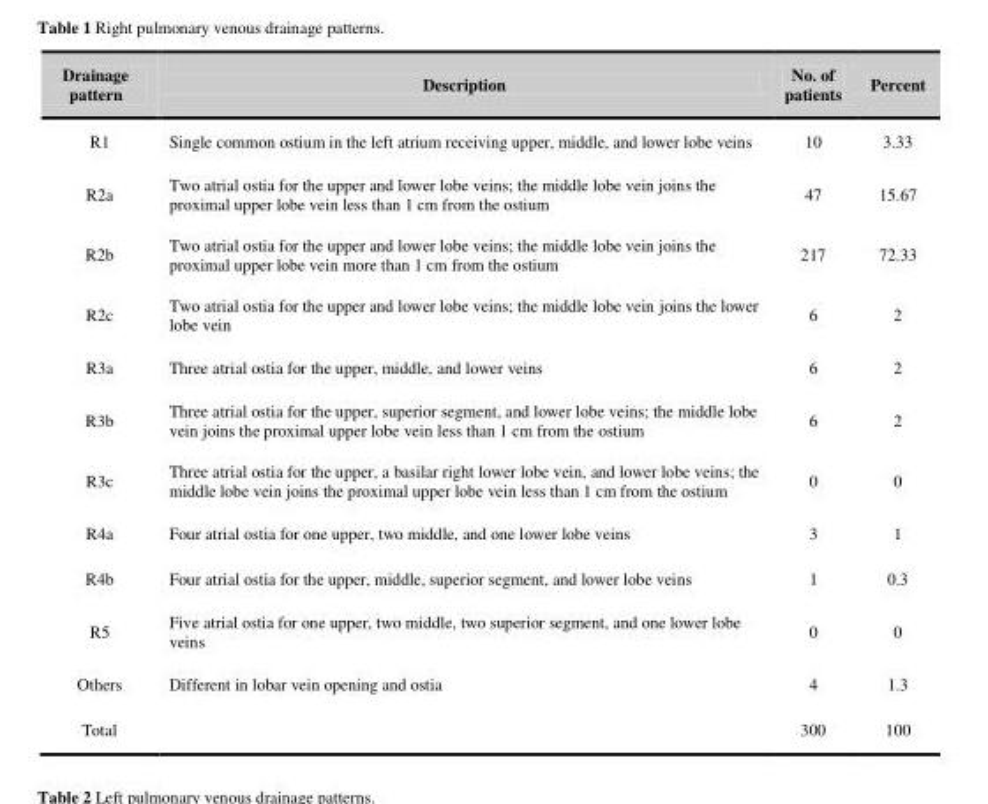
<table><thead><tr><td>Drainage pattern</td><td>Description</td><td>No. of patients</td><td>Percent</td></tr></thead><tbody><tr><td>R1</td><td>Single common ostium in the left atrium receiving upper, middle, and lower lobe veins</td><td>10</td><td>3.33</td></tr><tr><td>R2a</td><td>Two atrial ostia for the upper and lower lobe veins; the middle lobe vein joins the proximal upper lobe vein less than 1 cm from the ostium</td><td>47</td><td>15.67</td></tr><tr><td>R2b</td><td>Two atrial ostia for the upper and lower lobe veins; the middle lobe vein joins the proximal upper lobe vein more than 1 cm from the ostium</td><td>217</td><td>72.33</td></tr><tr><td>R2c</td><td>Two atrial ostia for the upper and lower lobe veins; the middle lobe vein joins the lower lobe vein</td><td>6</td><td>2</td></tr><tr><td>R3a</td><td>Three atrial ostia for the upper, middle, and lower veins</td><td>6</td><td>2</td></tr><tr><td>R3b</td><td>Three atrial ostia for the upper, superior segment, and lower lobe veins; the middle lobe vein joins the proximal upper lobe vein less than 1 cm from the ostium</td><td>6</td><td>2</td></tr><tr><td>R3c</td><td>Three atrial ostia for the upper, a basilar right lower lobe vein, and lower lobe veins; the middle lobe vein joins the proximal upper lobe vein less than 1 cm from the ostium</td><td>0</td><td>0</td></tr><tr><td>R4a</td><td>Four atrial ostia for one upper, two middle, and one lower lobe veins</td><td>3</td><td>1</td></tr><tr><td>R4b</td><td>Four atrial ostia for the upper, middle, superior segment, and lower lobe veins</td><td>1</td><td>0.3</td></tr><tr><td>R5</td><td>Five atrial ostia for one upper, two middle, two superior segment, and one lower lobe veins</td><td>0</td><td>0</td></tr><tr><td>Others</td><td>Different in lobar vein opening and ostia</td><td>4</td><td>1.3</td></tr><tr><td>Total</td><td></td><td>300</td><td>100</td></tr></tbody></table>